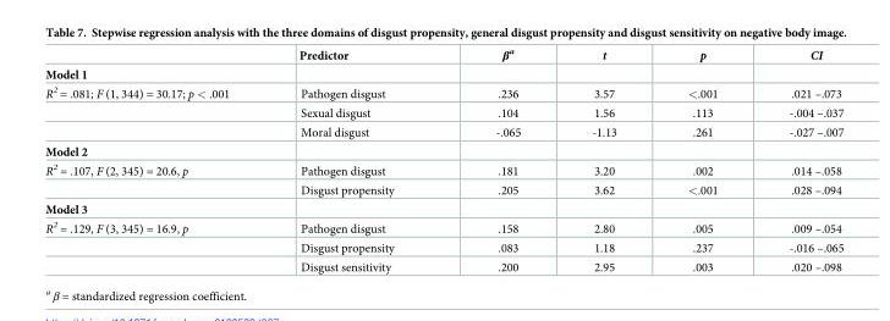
<table><thead><tr><td></td><td>Predictor</td><td>β<sup>a</sup></td><td>t</td><td>p</td><td>CI</td></tr></thead><tbody><tr><td colspan="6">Model 1</td></tr><tr><td rowspan="3">R<sup>2</sup> = .081; F (1, 344) = 30.17; p &lt; .001</td><td>Pathogen disgust</td><td>.236</td><td>3.57</td><td>&lt;.001</td><td>.021 –.073</td></tr><tr><td>Sexual disgust</td><td>.104</td><td>1.56</td><td>.113</td><td>-.004 –.037</td></tr><tr><td>Moral disgust</td><td>-.065</td><td>-1.13</td><td>.261</td><td>-.027 –.007</td></tr><tr><td colspan="6">Model 2</td></tr><tr><td rowspan="2">R<sup>2</sup> = .107, F (2, 345) = 20.6, p</td><td>Pathogen disgust</td><td>.181</td><td>3.20</td><td>.002</td><td>.014 –.058</td></tr><tr><td>Disgust propensity</td><td>.205</td><td>3.62</td><td>&lt;.001</td><td>.028 –.094</td></tr><tr><td colspan="6">Model 3</td></tr><tr><td rowspan="3">R<sup>2</sup> = .129, F (3, 345) = 16.9, p</td><td>Pathogen disgust</td><td>.158</td><td>2.80</td><td>.005</td><td>.009 –.054</td></tr><tr><td>Disgust propensity</td><td>.083</td><td>1.18</td><td>.237</td><td>-.016 –.065</td></tr><tr><td>Disgust sensitivity</td><td>.200</td><td>2.95</td><td>.003</td><td>.020 –.098</td></tr></tbody></table>